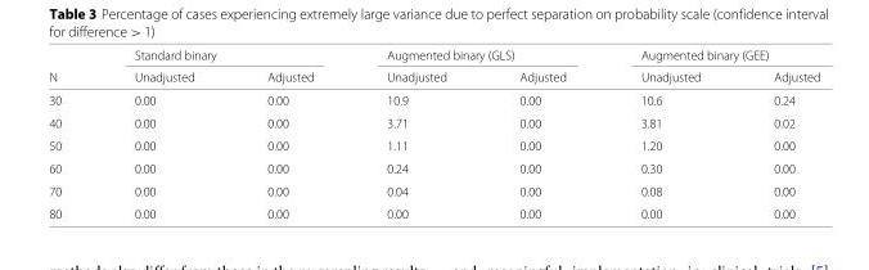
<table><thead><tr><td rowspan="2">N</td><td colspan="2">Standard binary</td><td colspan="2">Augmented binary (GLS)</td><td colspan="2">Augmented binary (GEE)</td></tr><tr><td>Unadjusted</td><td>Adjusted</td><td>Unadjusted</td><td>Adjusted</td><td>Unadjusted</td><td>Adjusted</td></tr></thead><tbody><tr><td>30</td><td>0.00</td><td>0.00</td><td>10.9</td><td>0.00</td><td>10.6</td><td>0.24</td></tr><tr><td>40</td><td>0.00</td><td>0.00</td><td>3.71</td><td>0.00</td><td>3.81</td><td>0.02</td></tr><tr><td>50</td><td>0.00</td><td>0.00</td><td>1.11</td><td>0.00</td><td>1.20</td><td>0.00</td></tr><tr><td>60</td><td>0.00</td><td>0.00</td><td>0.24</td><td>0.00</td><td>0.30</td><td>0.00</td></tr><tr><td>70</td><td>0.00</td><td>0.00</td><td>0.04</td><td>0.00</td><td>0.08</td><td>0.00</td></tr><tr><td>80</td><td>0.00</td><td>0.00</td><td>0.00</td><td>0.00</td><td>0.00</td><td>0.00</td></tr></tbody></table>